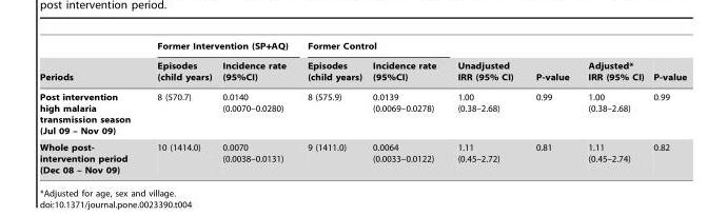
<table><thead><tr><td rowspan="2">Periods</td><td colspan="2">Former Intervention (SP+AQ)</td><td colspan="2">Former Control</td><td rowspan="2">Unadjusted IRR (95% CI)</td><td rowspan="2">P-value</td><td rowspan="2">Adjusted* IRR (95% CI)</td><td rowspan="2">P-value</td></tr><tr><td>Episodes (child years)</td><td>Incidence rate (95%CI)</td><td>Episodes (child years)</td><td>Incidence rate (95%CI)</td></tr></thead><tbody><tr><td>Post intervention high malaria transmission season (Jul 09 – Nov 09)</td><td>8 (570.7)</td><td>0.0140 (0.0070–0.0280)</td><td>8 (575.9)</td><td>0.0139 (0.0069–0.0278)</td><td>1.00 (0.38–2.68)</td><td>0.99</td><td>1.00 (0.38–2.68)</td><td>0.99</td></tr><tr><td>Whole post- intervention period (Dec 08 – Nov 09)</td><td>10 (1414.0)</td><td>0.0070 (0.0038–0.0131)</td><td>9 (1411.0)</td><td>0.0064 (0.0033–0.0122)</td><td>1.11 (0.45–2.72)</td><td>0.81</td><td>1.11 (0.45–2.74)</td><td>0.82</td></tr></tbody></table>